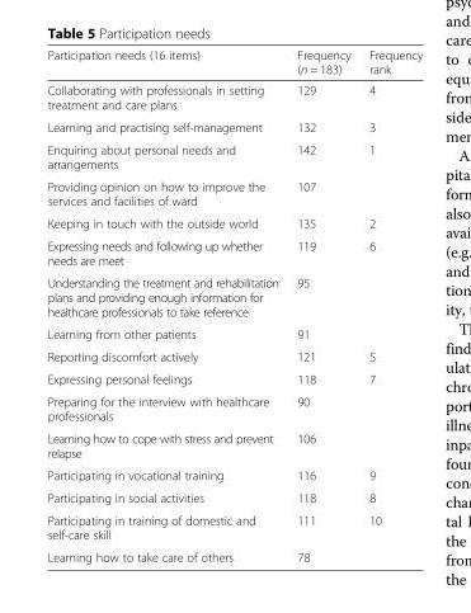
<table><thead><tr><td>Participation needs (16 items)</td><td>Frequency (n = 183)</td><td>Frequency rank</td></tr></thead><tbody><tr><td>Collaborating with professionals in setting treatment and care plans</td><td>129</td><td>4</td></tr><tr><td>Learning and practising self-management</td><td>132</td><td>3</td></tr><tr><td>Enquiring about personal needs and arrangements</td><td>142</td><td>1</td></tr><tr><td>Providing opinion on how to improve the services and facilities of ward</td><td>107</td><td></td></tr><tr><td>Keeping in touch with the outside world</td><td>135</td><td>2</td></tr><tr><td>Expressing needs and following up whether needs are meet</td><td>119</td><td>6</td></tr><tr><td>Understanding the treatment and rehabilitation plans and providing enough information for healthcare professionals to take reference</td><td>95</td><td></td></tr><tr><td>Learning from other patients</td><td>91</td><td></td></tr><tr><td>Reporting discomfort actively</td><td>121</td><td>5</td></tr><tr><td>Expressing personal feelings</td><td>118</td><td>7</td></tr><tr><td>Preparing for the interview with healthcare professionals</td><td>90</td><td></td></tr><tr><td>Learning how to cope with stress and prevent relapse</td><td>106</td><td></td></tr><tr><td>Participating in vocational training</td><td>116</td><td>9</td></tr><tr><td>Participating in social activities</td><td>118</td><td>8</td></tr><tr><td>Participating in training of domestic and self-care skill</td><td>111</td><td>10</td></tr><tr><td>Learning how to take care of others</td><td>78</td><td></td></tr></tbody></table>